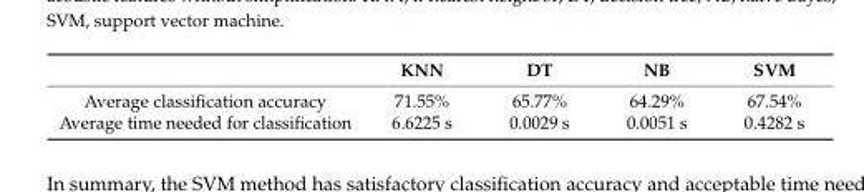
<table><thead><tr><td></td><td>KNN</td><td>DT</td><td>NB</td><td>SVM</td></tr></thead><tbody><tr><td>Average classification accuracy</td><td>71.55%</td><td>65.77%</td><td>64.29%</td><td>67.54%</td></tr><tr><td>Average time needed for classification</td><td>6.6225 s</td><td>0.0029 s</td><td>0.0051 s</td><td>0.4282 s</td></tr></tbody></table>